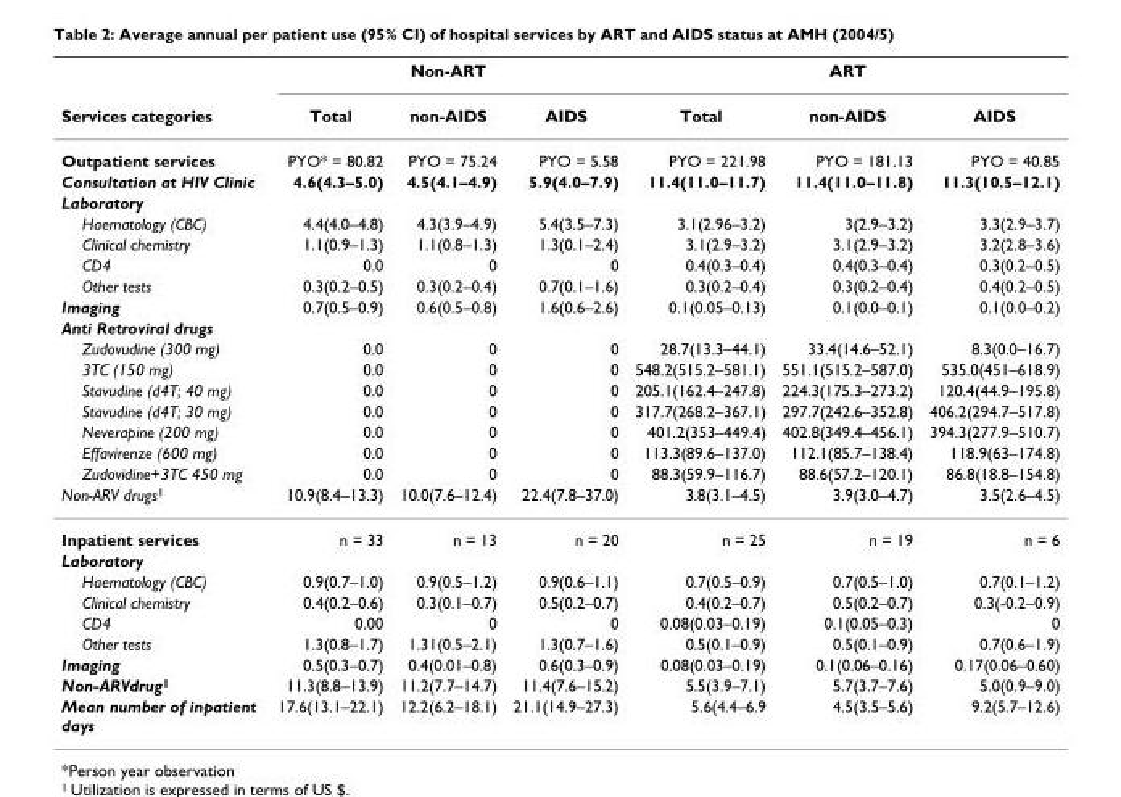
<table><thead><tr><td rowspan="2">Services categories</td><td colspan="3">Non-ART</td><td colspan="3">ART</td></tr><tr><td>Total</td><td>non-AIDS</td><td>AIDS</td><td>Total</td><td>non-AIDS</td><td>AIDS</td></tr></thead><tbody><tr><td>Outpatient services</td><td>PYO* = 80.82</td><td>PYO = 75.24</td><td>PYO = 5.58</td><td>PYO = 221.98</td><td>PYO = 181.13</td><td>PYO = 40.85</td></tr><tr><td>Consultation at HIV Clinic</td><td>4.6(4.3–5.0)</td><td>4.5(4.1–4.9)</td><td>5.9(4.0–7.9)</td><td>11.4(11.0–11.7)</td><td>11.4(11.0–11.8)</td><td>11.3(10.5–12.1)</td></tr><tr><td colspan="7">Laboratory</td></tr><tr><td>Haematology (CBC)</td><td>4.4(4.0–4.8)</td><td>4.3(3.9–4.9)</td><td>5.4(3.5–7.3)</td><td>3.1(2.96–3.2)</td><td>3(2.9–3.2)</td><td>3.3(2.9–3.7)</td></tr><tr><td>Clinical chemistry</td><td>1.1(0.9–1.3)</td><td>1.1(0.8–1.3)</td><td>1.3(0.1–2.4)</td><td>3.1(2.9–3.2)</td><td>3.1(2.9–3.2)</td><td>3.2(2.8–3.6)</td></tr><tr><td>CD4</td><td>0.0</td><td>0</td><td>0</td><td>0.4(0.3–0.4)</td><td>0.4(0.3–0.4)</td><td>0.3(0.2–0.5)</td></tr><tr><td>Other tests</td><td>0.3(0.2–0.5)</td><td>0.3(0.2–0.4)</td><td>0.7(0.1–1.6)</td><td>0.3(0.2–0.4)</td><td>0.3(0.2–0.4)</td><td>0.4(0.2–0.5)</td></tr><tr><td>Imaging</td><td>0.7(0.5–0.9)</td><td>0.6(0.5–0.8)</td><td>1.6(0.6–2.6)</td><td>0.1(0.05–0.13)</td><td>0.1(0.0–0.1)</td><td>0.1(0.0–0.2)</td></tr><tr><td colspan="7">Anti Retroviral drugs</td></tr><tr><td>Zudovudine (300 mg)</td><td>0.0</td><td>0</td><td>0</td><td>28.7(13.3–44.1)</td><td>33.4(14.6–52.1)</td><td>8.3(0.0–16.7)</td></tr><tr><td>3TC (150 mg)</td><td>0.0</td><td>0</td><td>0</td><td>548.2(515.2–581.1)</td><td>551.1(515.2–587.0)</td><td>535.0(451–618.9)</td></tr><tr><td>Stavudine (d4T; 40 mg)</td><td>0.0</td><td>0</td><td>0</td><td>205.1(162.4–247.8)</td><td>224.3(175.3–273.2)</td><td>120.4(44.9–195.8)</td></tr><tr><td>Stavudine (d4T; 30 mg)</td><td>0.0</td><td>0</td><td>0</td><td>317.7(268.2–367.1)</td><td>297.7(242.6–352.8)</td><td>406.2(294.7–517.8)</td></tr><tr><td>Neverapine (200 mg)</td><td>0.0</td><td>0</td><td>0</td><td>401.2(353–449.4)</td><td>402.8(349.4–456.1)</td><td>394.3(277.9–510.7)</td></tr><tr><td>Effavirenze (600 mg)</td><td>0.0</td><td>0</td><td>0</td><td>113.3(89.6–137.0)</td><td>112.1(85.7–138.4)</td><td>118.9(63–174.8)</td></tr><tr><td>Zudovidine+3TC 450 mg</td><td>0.0</td><td>0</td><td>0</td><td>88.3(59.9–116.7)</td><td>88.6(57.2–120.1)</td><td>86.8(18.8–154.8)</td></tr><tr><td>Non-ARV drugs<sup>1</sup></td><td>10.9(8.4–13.3)</td><td>10.0(7.6–12.4)</td><td>22.4(7.8–37.0)</td><td>3.8(3.1–4.5)</td><td>3.9(3.0–4.7)</td><td>3.5(2.6–4.5)</td></tr><tr><td>Inpatient services</td><td>n = 33</td><td>n = 13</td><td>n = 20</td><td>n = 25</td><td>n = 19</td><td>n = 6</td></tr><tr><td colspan="7">Laboratory</td></tr><tr><td>Haematology (CBC)</td><td>0.9(0.7–1.0)</td><td>0.9(0.5–1.2)</td><td>0.9(0.6–1.1)</td><td>0.7(0.5–0.9)</td><td>0.7(0.5–1.0)</td><td>0.7(0.1–1.2)</td></tr><tr><td>Clinical chemistry</td><td>0.4(0.2–0.6)</td><td>0.3(0.1–0.7)</td><td>0.5(0.2–0.7)</td><td>0.4(0.2–0.7)</td><td>0.5(0.2–0.7)</td><td>0.3(-0.2–0.9)</td></tr><tr><td>CD4</td><td>0.00</td><td>0</td><td>0</td><td>0.08(0.03–0.19)</td><td>0.1(0.05–0.3)</td><td>0</td></tr><tr><td>Other tests</td><td>1.3(0.8–1.7)</td><td>1.31(0.5–2.1)</td><td>1.3(0.7–1.6)</td><td>0.5(0.1–0.9)</td><td>0.5(0.1–0.9)</td><td>0.7(0.6–1.9)</td></tr><tr><td>Imaging</td><td>0.5(0.3–0.7)</td><td>0.4(0.01–0.8)</td><td>0.6(0.3–0.9)</td><td>0.08(0.03–0.19)</td><td>0.1(0.06–0.16)</td><td>0.17(0.06–0.60)</td></tr><tr><td>Non-ARVdrug<sup>1</sup></td><td>11.3(8.8–13.9)</td><td>11.2(7.7–14.7)</td><td>11.4(7.6–15.2)</td><td>5.5(3.9–7.1)</td><td>5.7(3.7–7.6)</td><td>5.0(0.9–9.0)</td></tr><tr><td>Mean number of inpatient days</td><td>17.6(13.1–22.1)</td><td>12.2(6.2–18.1)</td><td>21.1(14.9–27.3)</td><td>5.6(4.4–6.9</td><td>4.5(3.5–5.6)</td><td>9.2(5.7–12.6)</td></tr></tbody></table>